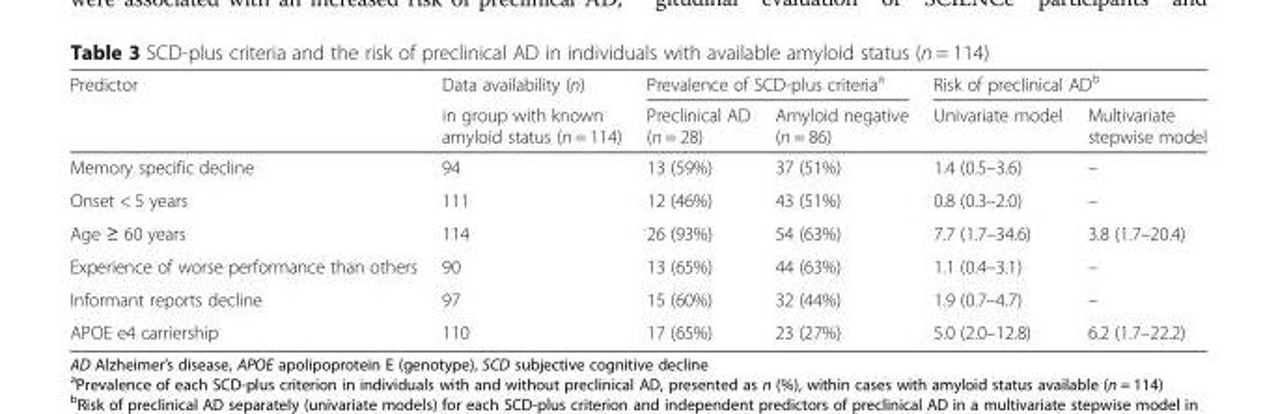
<table><thead><tr><td rowspan="2">Predictor</td><td rowspan="2">Data availability (n) in group with known amyloid status (n = 114)</td><td colspan="2">Prevalence of SCD-plus criteria<sup>a</sup></td><td colspan="2">Risk of preclinical AD<sup>b</sup></td></tr><tr><td>Preclinical AD (n = 28)</td><td>Amyloid negative (n = 86)</td><td>Univariate model</td><td>Multivariate stepwise model</td></tr></thead><tbody><tr><td>Memory specific decline</td><td>94</td><td>13 (59%)</td><td>37 (51%)</td><td>1.4 (0.5–3.6)</td><td>–</td></tr><tr><td>Onset &lt; 5 years</td><td>111</td><td>12 (46%)</td><td>43 (51%)</td><td>0.8 (0.3–2.0)</td><td>–</td></tr><tr><td>Age ≥ 60 years</td><td>114</td><td>26 (93%)</td><td>54 (63%)</td><td>7.7 (1.7–34.6)</td><td>3.8 (1.7–20.4)</td></tr><tr><td>Experience of worse performance than others</td><td>90</td><td>13 (65%)</td><td>44 (63%)</td><td>1.1 (0.4–3.1)</td><td>–</td></tr><tr><td>Informant reports decline</td><td>97</td><td>15 (60%)</td><td>32 (44%)</td><td>1.9 (0.7–4.7)</td><td>–</td></tr><tr><td>APOE e4 carriership</td><td>110</td><td>17 (65%)</td><td>23 (27%)</td><td>5.0 (2.0–12.8)</td><td>6.2 (1.7–22.2)</td></tr></tbody></table>